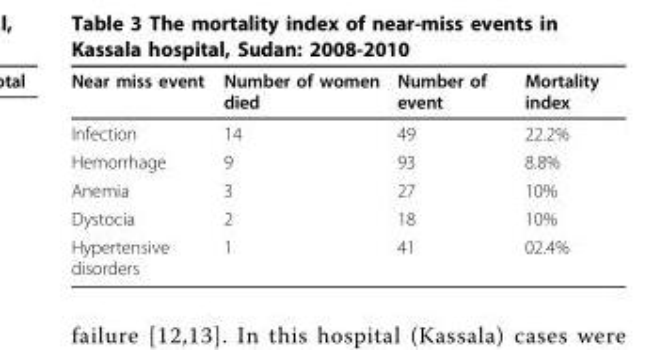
<table><thead><tr><td>Near miss event</td><td>Number of women died</td><td>Number of event</td><td>Mortality index</td></tr></thead><tbody><tr><td>Infection</td><td>14</td><td>49</td><td>22.2%</td></tr><tr><td>Hemorrhage</td><td>9</td><td>93</td><td>8.8%</td></tr><tr><td>Anemia</td><td>3</td><td>27</td><td>10%</td></tr><tr><td>Dystocia</td><td>2</td><td>18</td><td>10%</td></tr><tr><td>Hypertensive disorders</td><td>1</td><td>41</td><td>02.4%</td></tr></tbody></table>